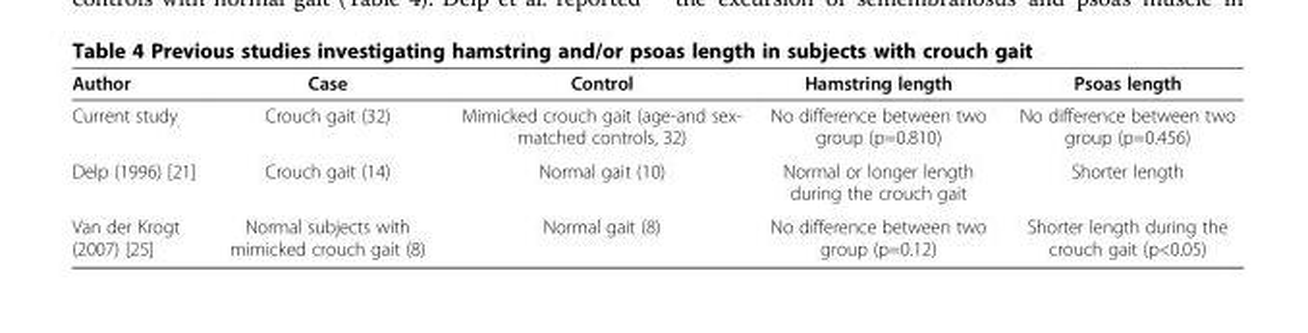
<table><thead><tr><td>Author</td><td>Case</td><td>Control</td><td>Hamstring length</td><td>Psoas length</td></tr></thead><tbody><tr><td>Current study</td><td>Crouch gait (32)</td><td>Mimicked crouch gait (age-and sex- matched controls, 32)</td><td>No difference between two group (p=0.810)</td><td>No difference between two group (p=0.456)</td></tr><tr><td>Delp (1996) [21]</td><td>Crouch gait (14)</td><td>Normal gait (10)</td><td>Normal or longer length during the crouch gait</td><td>Shorter length</td></tr><tr><td>Van der Krogt (2007) [25]</td><td>Normal subjects with mimicked crouch gait (8)</td><td>Normal gait (8)</td><td>No difference between two group (p=0.12)</td><td>Shorter length during the crouch gait (p&lt;0.05)</td></tr></tbody></table>